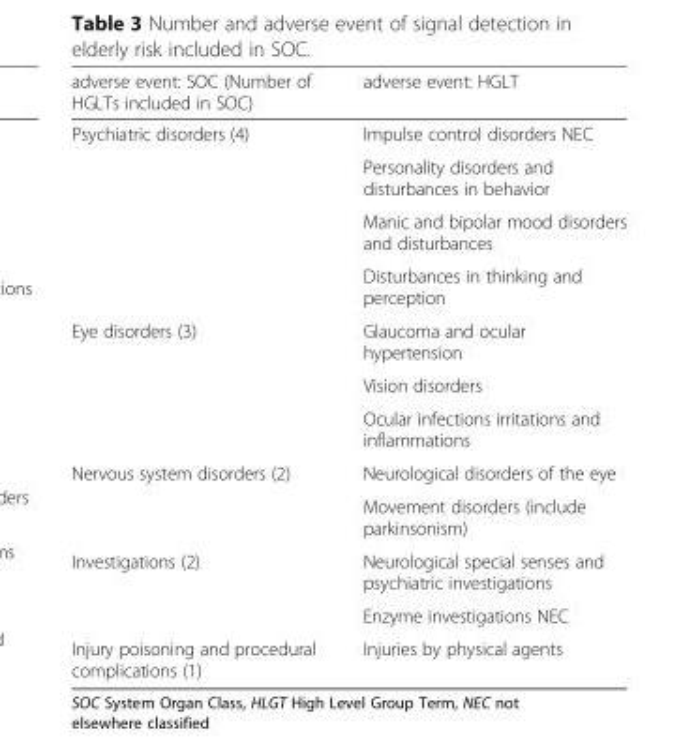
<table><thead><tr><td>adverse event: SOC (Number of HGLTs included in SOC)</td><td>adverse event: HGLT</td></tr></thead><tbody><tr><td rowspan="4">Psychiatric disorders (4)</td><td>Impulse control disorders NEC</td></tr><tr><td>Personality disorders and disturbances in behavior</td></tr><tr><td>Manic and bipolar mood disorders and disturbances</td></tr><tr><td>Disturbances in thinking and perception</td></tr><tr><td rowspan="3">Eye disorders (3)</td><td>Glaucoma and ocular hypertension</td></tr><tr><td>Vision disorders</td></tr><tr><td>Ocular infections irritations and inflammations</td></tr><tr><td rowspan="2">Nervous system disorders (2)</td><td>Neurological disorders of the eye</td></tr><tr><td>Movement disorders (include parkinsonism)</td></tr><tr><td rowspan="2">Investigations (2)</td><td>Neurological special senses and psychiatric investigations</td></tr><tr><td>Enzyme investigations NEC</td></tr><tr><td>Injury poisoning and procedural complications (1)</td><td>Injuries by physical agents</td></tr></tbody></table>